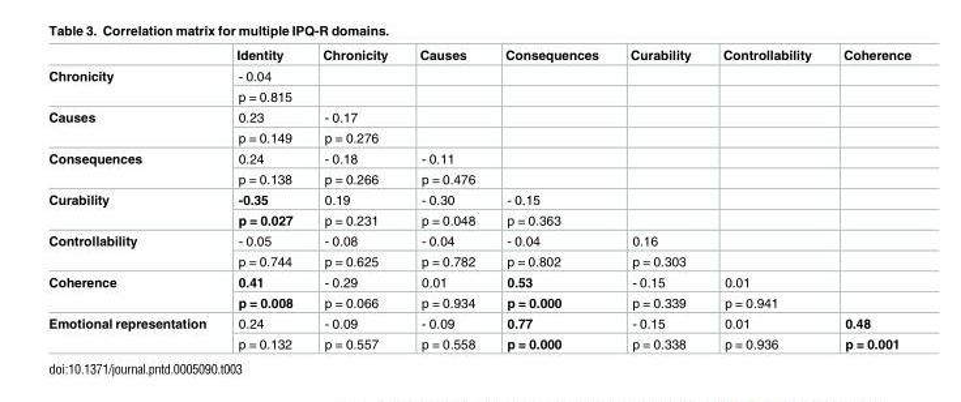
<table><thead><tr><td></td><td>Identity</td><td>Chronicity</td><td>Causes</td><td>Consequences</td><td>Curability</td><td>Controllability</td><td>Coherence</td></tr></thead><tbody><tr><td rowspan="2">Chronicity</td><td>- 0.04</td><td></td><td></td><td></td><td></td><td></td><td></td></tr><tr><td>p = 0.815</td><td></td><td></td><td></td><td></td><td></td><td></td></tr><tr><td rowspan="2">Causes</td><td>0.23</td><td>- 0.17</td><td></td><td></td><td></td><td></td><td></td></tr><tr><td>p = 0.149</td><td>p = 0.276</td><td></td><td></td><td></td><td></td><td></td></tr><tr><td rowspan="2">Consequences</td><td>0.24</td><td>- 0.18</td><td>- 0.11</td><td></td><td></td><td></td><td></td></tr><tr><td>p = 0.138</td><td>p = 0.266</td><td>p = 0.476</td><td></td><td></td><td></td><td></td></tr><tr><td rowspan="2">Curability</td><td>-0.35</td><td>0.19</td><td>- 0.30</td><td>- 0.15</td><td></td><td></td><td></td></tr><tr><td>p = 0.027</td><td>p = 0.231</td><td>p = 0.048</td><td>p = 0.363</td><td></td><td></td><td></td></tr><tr><td rowspan="2">Controllability</td><td>- 0.05</td><td>- 0.08</td><td>- 0.04</td><td>- 0.04</td><td>0.16</td><td></td><td></td></tr><tr><td>p = 0.744</td><td>p = 0.625</td><td>p = 0.782</td><td>p = 0.802</td><td>p = 0.303</td><td></td><td></td></tr><tr><td rowspan="2">Coherence</td><td>0.41</td><td>- 0.29</td><td>0.01</td><td>0.53</td><td>- 0.15</td><td>0.01</td><td></td></tr><tr><td>p = 0.008</td><td>p = 0.066</td><td>p = 0.934</td><td>p = 0.000</td><td>p = 0.339</td><td>p = 0.941</td><td></td></tr><tr><td rowspan="2">Emotional representation</td><td>0.24</td><td>- 0.09</td><td>- 0.09</td><td>0.77</td><td>- 0.15</td><td>0.01</td><td>0.48</td></tr><tr><td>p = 0.132</td><td>p = 0.557</td><td>p = 0.558</td><td>p = 0.000</td><td>p = 0.338</td><td>p = 0.936</td><td>p = 0.001</td></tr></tbody></table>